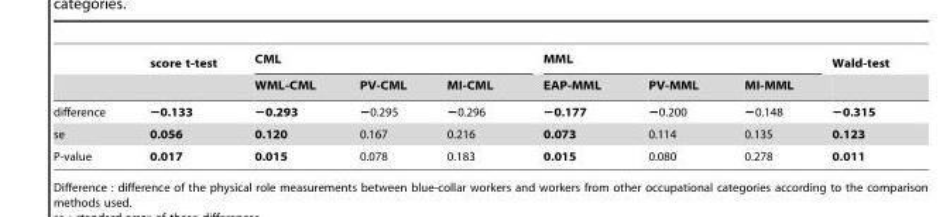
<table><thead><tr><td rowspan="2"></td><td rowspan="2">score t-test</td><td colspan="3">CML</td><td colspan="3">MML</td><td rowspan="2">Wald-test</td></tr><tr><td>WML-CML</td><td>PV-CML</td><td>MI-CML</td><td>EAP-MML</td><td>PV-MML</td><td>MI-MML</td></tr></thead><tbody><tr><td>difference</td><td>−0.133</td><td>−0.293</td><td>−0.295</td><td>−0.296</td><td>−0.177</td><td>−0.200</td><td>−0.148</td><td>−0.315</td></tr><tr><td>se</td><td>0.056</td><td>0.120</td><td>0.167</td><td>0.216</td><td>0.073</td><td>0.114</td><td>0.135</td><td>0.123</td></tr><tr><td>P-value</td><td>0.017</td><td>0.015</td><td>0.078</td><td>0.183</td><td>0.015</td><td>0.080</td><td>0.278</td><td>0.011</td></tr></tbody></table>